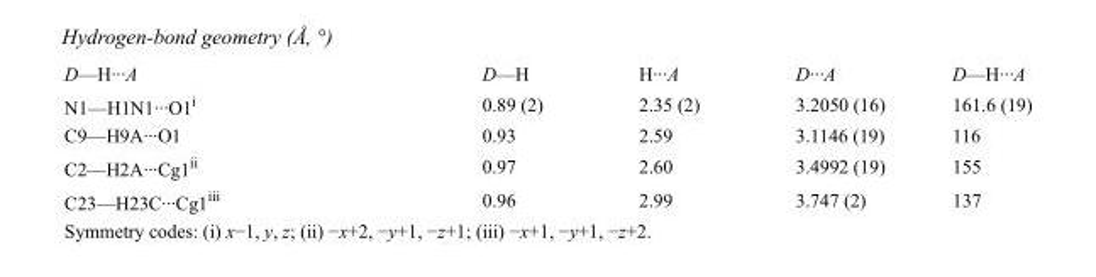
<table><tbody><tr><td>D—H···A</td><td>D—H</td><td>H···A</td><td>D···A</td><td>D—H···A</td></tr><tr><td>N1—H1N1···O1<sup>i</sup></td><td>0.89 (2)</td><td>2.35 (2)</td><td>3.2050 (16)</td><td>161.6 (19)</td></tr><tr><td>C9—H9A···O1</td><td>0.93</td><td>2.59</td><td>3.1146 (19)</td><td>116</td></tr><tr><td>C2—H2A···Cg1<sup>ii</sup></td><td>0.97</td><td>2.60</td><td>3.4992 (19)</td><td>155</td></tr><tr><td>C23—H23C···Cg1<sup>iii</sup></td><td>0.96</td><td>2.99</td><td>3.747 (2)</td><td>137</td></tr></tbody></table>